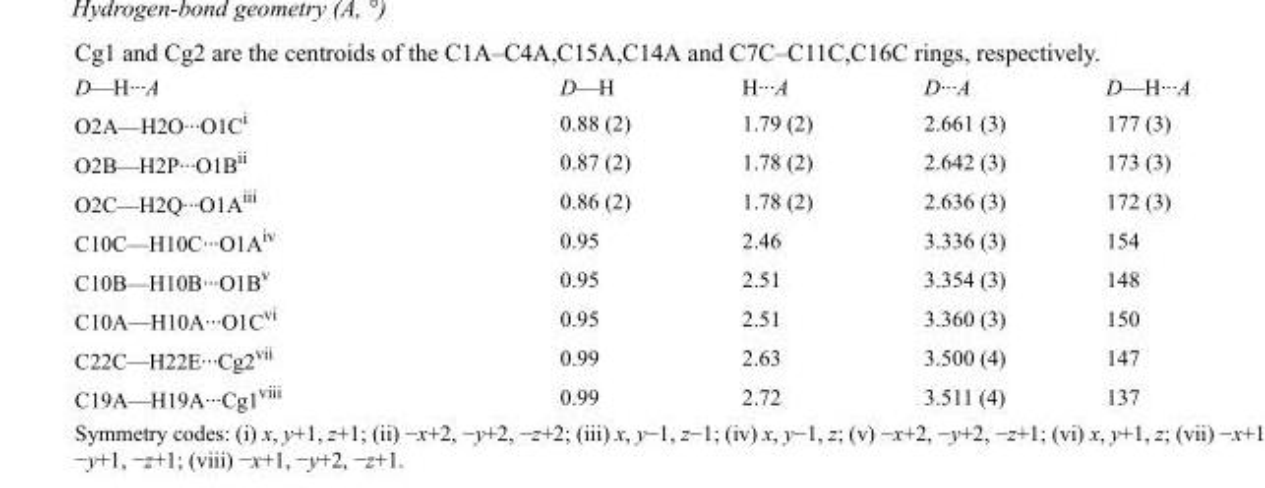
<table><tbody><tr><td>D—H···A</td><td>D—H</td><td>H···A</td><td>D···A</td><td>D—H···A</td></tr><tr><td>O2A—H2O···O1C<sup>i</sup></td><td>0.88 (2)</td><td>1.79 (2)</td><td>2.661 (3)</td><td>177 (3)</td></tr><tr><td>O2B—H2P···O1B<sup>ii</sup></td><td>0.87 (2)</td><td>1.78 (2)</td><td>2.642 (3)</td><td>173 (3)</td></tr><tr><td>O2C—H2Q···O1A<sup>iii</sup></td><td>0.86 (2)</td><td>1.78 (2)</td><td>2.636 (3)</td><td>172 (3)</td></tr><tr><td>C10C—H10C···O1A<sup>iv</sup></td><td>0.95</td><td>2.46</td><td>3.336 (3)</td><td>154</td></tr><tr><td>C10B—H10B···O1B<sup>v</sup></td><td>0.95</td><td>2.51</td><td>3.354 (3)</td><td>148</td></tr><tr><td>C10A—H10A···O1C<sup>vi</sup></td><td>0.95</td><td>2.51</td><td>3.360 (3)</td><td>150</td></tr><tr><td>C22C—H22E···Cg2<sup>vii</sup></td><td>0.99</td><td>2.63</td><td>3.500 (4)</td><td>147</td></tr><tr><td>C19A—H19A···Cg1<sup>viii</sup></td><td>0.99</td><td>2.72</td><td>3.511 (4)</td><td>137</td></tr></tbody></table>